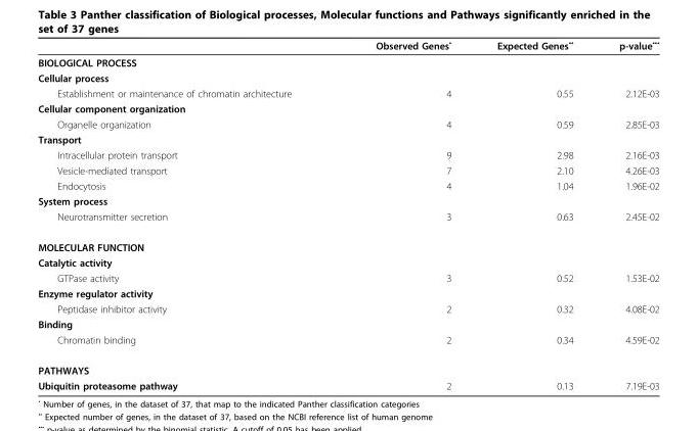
<table><thead><tr><td></td><td>Observed Genes<sup>•</sup></td><td>Expected Genes<sup>••</sup></td><td>p-value<sup>•••</sup></td></tr></thead><tbody><tr><td colspan="4">BIOLOGICAL PROCESS</td></tr><tr><td colspan="4">Cellular process</td></tr><tr><td>Establishment or maintenance of chromatin architecture</td><td>4</td><td>0.55</td><td>2.12E-03</td></tr><tr><td colspan="4">Cellular component organization</td></tr><tr><td>Organelle organization</td><td>4</td><td>0.59</td><td>2.85E-03</td></tr><tr><td colspan="4">Transport</td></tr><tr><td>Intracellular protein transport</td><td>9</td><td>2.98</td><td>2.16E-03</td></tr><tr><td>Vesicle-mediated transport</td><td>7</td><td>2.10</td><td>4.26E-03</td></tr><tr><td>Endocytosis</td><td>4</td><td>1.04</td><td>1.96E-02</td></tr><tr><td colspan="4">System process</td></tr><tr><td>Neurotransmitter secretion</td><td>3</td><td>0.63</td><td>2.45E-02</td></tr><tr><td colspan="4">MOLECULAR FUNCTION</td></tr><tr><td colspan="4">Catalytic activity</td></tr><tr><td>GTPase activity</td><td>3</td><td>0.52</td><td>1.53E-02</td></tr><tr><td colspan="4">Enzyme regulator activity</td></tr><tr><td>Peptidase inhibitor activity</td><td>2</td><td>0.32</td><td>4.08E-02</td></tr><tr><td colspan="4">Binding</td></tr><tr><td>Chromatin binding</td><td>2</td><td>0.34</td><td>4.59E-02</td></tr><tr><td colspan="4">PATHWAYS</td></tr><tr><td>Ubiquitin proteasome pathway</td><td>2</td><td>0.13</td><td>7.19E-03</td></tr></tbody></table>